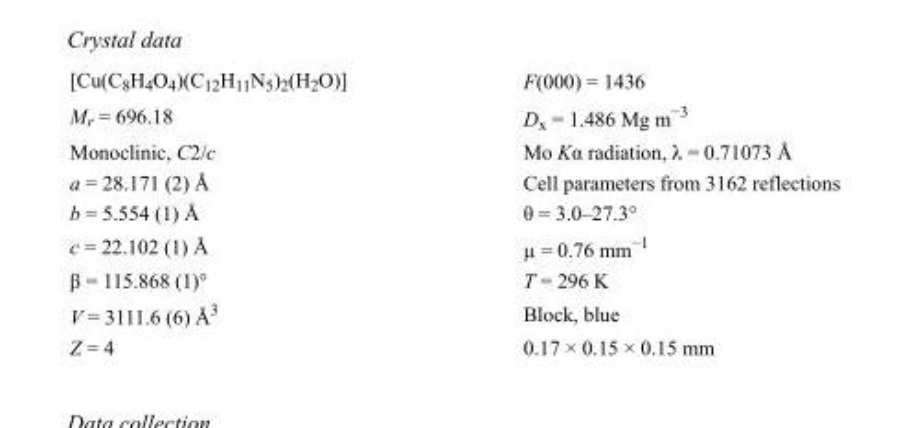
<table><tbody><tr><td>[Cu(C<sub>8</sub>H<sub>4</sub>O<sub>4</sub>)(C<sub>12</sub>H<sub>11</sub>N<sub>5</sub>)<sub>2</sub>(H<sub>2</sub>O)]</td><td>F(000) = 1436</td></tr><tr><td>M<sub>r</sub> = 696.18</td><td>D<sub>x</sub> = 1.486 Mg m<sup>−3</sup></td></tr><tr><td>Monoclinic, C2/c</td><td>Mo Kα radiation, λ = 0.71073 Å</td></tr><tr><td>a = 28.171 (2) Å</td><td>Cell parameters from 3162 reflections</td></tr><tr><td>b = 5.554 (1) Å</td><td>θ = 3.0–27.3°</td></tr><tr><td>c = 22.102 (1) Å</td><td>µ = 0.76 mm<sup>−1</sup></td></tr><tr><td>β = 115.868 (1)°</td><td>T = 296 K</td></tr><tr><td>V = 3111.6 (6) Å<sup>3</sup></td><td>Block, blue</td></tr><tr><td>Z = 4</td><td>0.17 × 0.15 × 0.15 mm</td></tr></tbody></table>